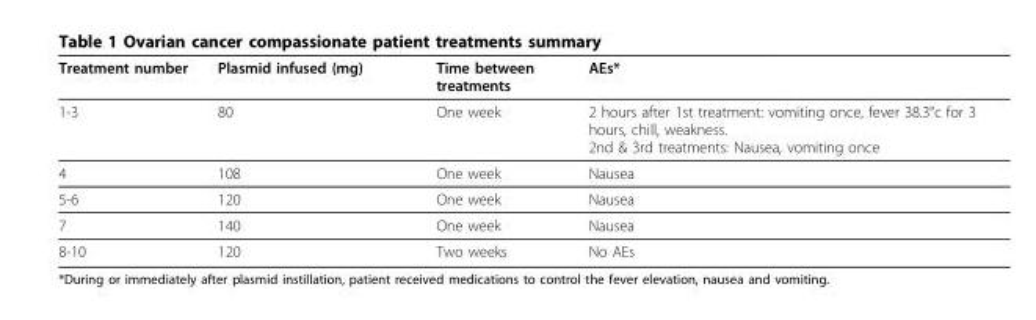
<table><thead><tr><td>Treatment number</td><td>Plasmid infused (mg)</td><td>Time between treatments</td><td>AEs*</td></tr></thead><tbody><tr><td>1-3</td><td>80</td><td>One week</td><td>2 hours after 1st treatment: vomiting once, fever 38.3°c for 3 hours, chill, weakness. 2nd &amp; 3rd treatments: Nausea, vomiting once</td></tr><tr><td>4</td><td>108</td><td>One week</td><td>Nausea</td></tr><tr><td>5-6</td><td>120</td><td>One week</td><td>Nausea</td></tr><tr><td>7</td><td>140</td><td>One week</td><td>Nausea</td></tr><tr><td>8-10</td><td>120</td><td>Two weeks</td><td>No AEs</td></tr></tbody></table>